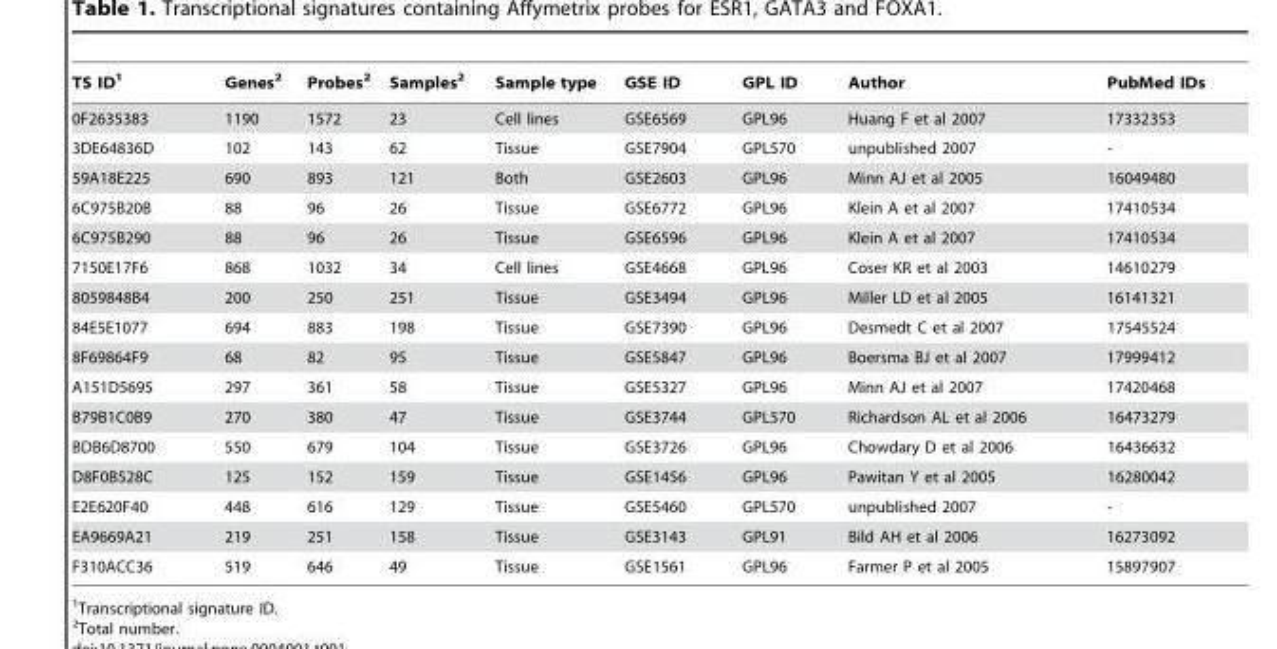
<table><thead><tr><td>TS ID<sup>1</sup></td><td>Genes<sup>2</sup></td><td>Probes<sup>2</sup></td><td>Samples<sup>2</sup></td><td>Sample type</td><td>GSE ID</td><td>GPL ID</td><td>Author</td><td>PubMed IDs</td></tr></thead><tbody><tr><td>0F2635383</td><td>1190</td><td>1572</td><td>23</td><td>Cell lines</td><td>GSE6569</td><td>GPL96</td><td>Huang F et al 2007</td><td>17332353</td></tr><tr><td>3DE64836D</td><td>102</td><td>143</td><td>62</td><td>Tissue</td><td>GSE7904</td><td>GPL570</td><td>unpublished 2007</td><td>-</td></tr><tr><td>59A18E225</td><td>690</td><td>893</td><td>121</td><td>Both</td><td>GSE2603</td><td>GPL96</td><td>Minn AJ et al 2005</td><td>16049480</td></tr><tr><td>6C975B20B</td><td>88</td><td>96</td><td>26</td><td>Tissue</td><td>GSE6772</td><td>GPL96</td><td>Klein A et al 2007</td><td>17410534</td></tr><tr><td>6C975B290</td><td>88</td><td>96</td><td>26</td><td>Tissue</td><td>GSE6596</td><td>GPL96</td><td>Klein A et al 2007</td><td>17410534</td></tr><tr><td>7150E17F6</td><td>868</td><td>1032</td><td>34</td><td>Cell lines</td><td>GSE4668</td><td>GPL96</td><td>Coser KR et al 2003</td><td>14610279</td></tr><tr><td>8059848B4</td><td>200</td><td>250</td><td>251</td><td>Tissue</td><td>GSE3494</td><td>GPL96</td><td>Miller LD et al 2005</td><td>16141321</td></tr><tr><td>84E5E1077</td><td>694</td><td>883</td><td>198</td><td>Tissue</td><td>GSE7390</td><td>GPL96</td><td>Desmedt C et al 2007</td><td>17545524</td></tr><tr><td>8F69864F9</td><td>68</td><td>82</td><td>95</td><td>Tissue</td><td>GSE5847</td><td>GPL96</td><td>Boersma BJ et al 2007</td><td>17999412</td></tr><tr><td>A151D5695</td><td>297</td><td>361</td><td>58</td><td>Tissue</td><td>GSE5327</td><td>GPL96</td><td>Minn AJ et al 2007</td><td>17420468</td></tr><tr><td>B79B1C0B9</td><td>270</td><td>380</td><td>47</td><td>Tissue</td><td>GSE3744</td><td>GPL570</td><td>Richardson AL et al 2006</td><td>16473279</td></tr><tr><td>BDB6D8700</td><td>550</td><td>679</td><td>104</td><td>Tissue</td><td>GSE3726</td><td>GPL96</td><td>Chowdary D et al 2006</td><td>16436632</td></tr><tr><td>D8F0B528C</td><td>125</td><td>152</td><td>159</td><td>Tissue</td><td>GSE1456</td><td>GPL96</td><td>Pawitan Y et al 2005</td><td>16280042</td></tr><tr><td>E2E620F40</td><td>448</td><td>616</td><td>129</td><td>Tissue</td><td>GSE5460</td><td>GPL570</td><td>unpublished 2007</td><td>-</td></tr><tr><td>EA9669A21</td><td>219</td><td>251</td><td>158</td><td>Tissue</td><td>GSE3143</td><td>GPL91</td><td>Bild AH et al 2006</td><td>16273092</td></tr><tr><td>F310ACC36</td><td>519</td><td>646</td><td>49</td><td>Tissue</td><td>GSE1561</td><td>GPL96</td><td>Farmer P et al 2005</td><td>15897907</td></tr></tbody></table>